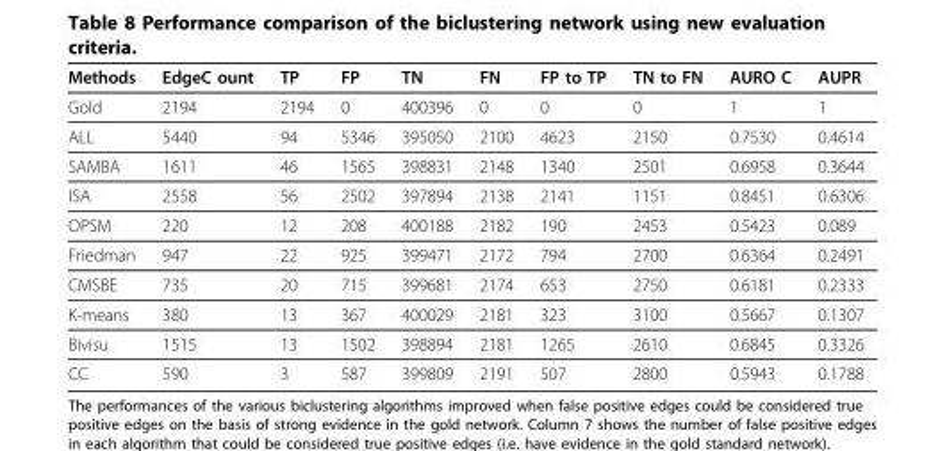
<table><thead><tr><td>Methods</td><td>EdgeC ount</td><td>TP</td><td>FP</td><td>TN</td><td>FN</td><td>FP to TP</td><td>TN to FN</td><td>AURO C</td><td>AUPR</td></tr></thead><tbody><tr><td>Gold</td><td>2194</td><td>2194</td><td>0</td><td>400396</td><td>0</td><td>0</td><td>0</td><td>1</td><td>1</td></tr><tr><td>ALL</td><td>5440</td><td>94</td><td>5346</td><td>395050</td><td>2100</td><td>4623</td><td>2150</td><td>0.7530</td><td>0.4614</td></tr><tr><td>SAMBA</td><td>1611</td><td>46</td><td>1565</td><td>398831</td><td>2148</td><td>1340</td><td>2501</td><td>0.6958</td><td>0.3644</td></tr><tr><td>ISA</td><td>2558</td><td>56</td><td>2502</td><td>397894</td><td>2138</td><td>2141</td><td>1151</td><td>0.8451</td><td>0.6306</td></tr><tr><td>OPSM</td><td>220</td><td>12</td><td>208</td><td>400188</td><td>2182</td><td>190</td><td>2453</td><td>0.5423</td><td>0.089</td></tr><tr><td>Friedman</td><td>947</td><td>22</td><td>925</td><td>399471</td><td>2172</td><td>794</td><td>2700</td><td>0.6364</td><td>0.2491</td></tr><tr><td>CMSBE</td><td>735</td><td>20</td><td>715</td><td>399681</td><td>2174</td><td>653</td><td>2750</td><td>0.6181</td><td>0.2333</td></tr><tr><td>K-means</td><td>380</td><td>13</td><td>367</td><td>400029</td><td>2181</td><td>323</td><td>3100</td><td>0.5667</td><td>0.1307</td></tr><tr><td>Bivisu</td><td>1515</td><td>13</td><td>1502</td><td>398894</td><td>2181</td><td>1265</td><td>2610</td><td>0.6845</td><td>0.3326</td></tr><tr><td>CC</td><td>590</td><td>3</td><td>587</td><td>399809</td><td>2191</td><td>507</td><td>2800</td><td>0.5943</td><td>0.1788</td></tr></tbody></table>